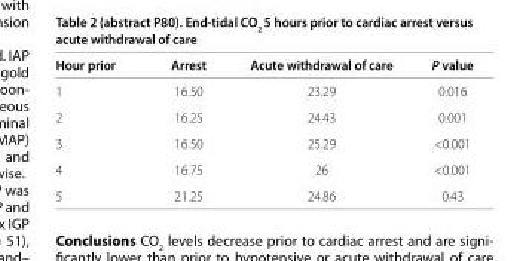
<table><thead><tr><td>Hour prior</td><td>Arrest</td><td>Acute withdrawal of care</td><td>P value</td></tr></thead><tbody><tr><td>1</td><td>16.50</td><td>23.29</td><td>0.016</td></tr><tr><td>2</td><td>16.25</td><td>24.43</td><td>0.001</td></tr><tr><td>3</td><td>16.50</td><td>25.29</td><td>&lt;0.001</td></tr><tr><td>4</td><td>16.75</td><td>26</td><td>&lt;0.001</td></tr><tr><td>5</td><td>21.25</td><td>24.86</td><td>0.43</td></tr></tbody></table>